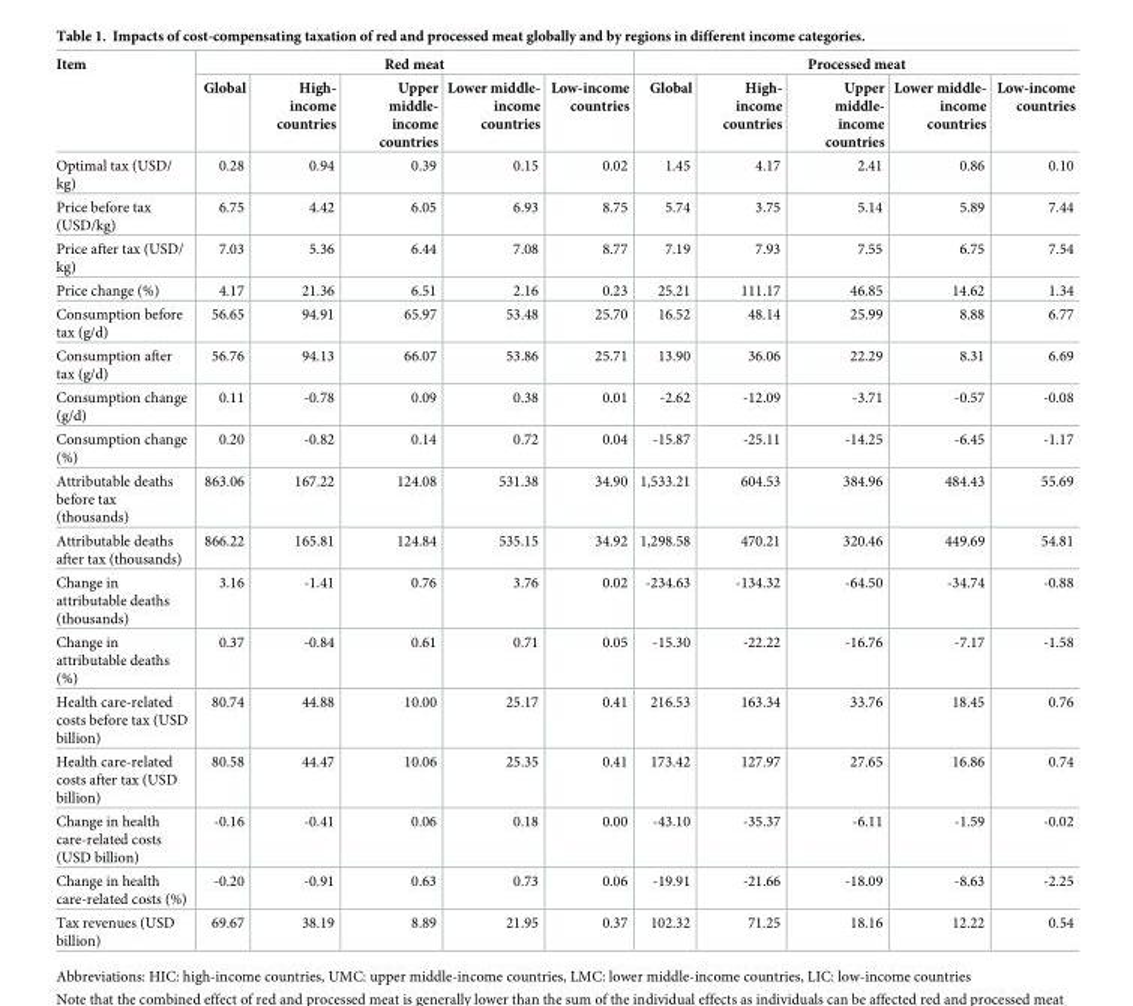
<table><thead><tr><td rowspan="2">Item</td><td colspan="5">Red meat</td><td colspan="5">Processed meat</td></tr><tr><td>Global</td><td>High- income countries</td><td>Upper middle- income countries</td><td>Lower middle- income countries</td><td>Low-income countries</td><td>Global</td><td>High- income countries</td><td>Upper middle- income countries</td><td>Lower middle- income countries</td><td>Low-income countries</td></tr></thead><tbody><tr><td>Optimal tax (USD/ kg)</td><td>0.28</td><td>0.94</td><td>0.39</td><td>0.15</td><td>0.02</td><td>1.45</td><td>4.17</td><td>2.41</td><td>0.86</td><td>0.10</td></tr><tr><td>Price before tax (USD/kg)</td><td>6.75</td><td>4.42</td><td>6.05</td><td>6.93</td><td>8.75</td><td>5.74</td><td>3.75</td><td>5.14</td><td>5.89</td><td>7.44</td></tr><tr><td>Price after tax (USD/ kg)</td><td>7.03</td><td>5.36</td><td>6.44</td><td>7.08</td><td>8.77</td><td>7.19</td><td>7.93</td><td>7.55</td><td>6.75</td><td>7.54</td></tr><tr><td>Price change (%)</td><td>4.17</td><td>21.36</td><td>6.51</td><td>2.16</td><td>0.23</td><td>25.21</td><td>111.17</td><td>46.85</td><td>14.62</td><td>1.34</td></tr><tr><td>Consumption before tax (g/d)</td><td>56.65</td><td>94.91</td><td>65.97</td><td>53.48</td><td>25.70</td><td>16.52</td><td>48.14</td><td>25.99</td><td>8.88</td><td>6.77</td></tr><tr><td>Consumption after tax (g/d)</td><td>56.76</td><td>94.13</td><td>66.07</td><td>53.86</td><td>25.71</td><td>13.90</td><td>36.06</td><td>22.29</td><td>8.31</td><td>6.69</td></tr><tr><td>Consumption change (g/d)</td><td>0.11</td><td>-0.78</td><td>0.09</td><td>0.38</td><td>0.01</td><td>-2.62</td><td>-12.09</td><td>-3.71</td><td>-0.57</td><td>-0.08</td></tr><tr><td>Consumption change (%)</td><td>0.20</td><td>-0.82</td><td>0.14</td><td>0.72</td><td>0.04</td><td>-15.87</td><td>-25.11</td><td>-14.25</td><td>-6.45</td><td>-1.17</td></tr><tr><td>Attributable deaths before tax (thousands)</td><td>863.06</td><td>167.22</td><td>124.08</td><td>531.38</td><td>34.90</td><td>1,533.21</td><td>604.53</td><td>384.96</td><td>484.43</td><td>55.69</td></tr><tr><td>Attributable deaths after tax (thousands)</td><td>866.22</td><td>165.81</td><td>124.84</td><td>535.15</td><td>34.92</td><td>1,298.58</td><td>470.21</td><td>320.46</td><td>449.69</td><td>54.81</td></tr><tr><td>Change in attributable deaths (thousands)</td><td>3.16</td><td>-1.41</td><td>0.76</td><td>3.76</td><td>0.02</td><td>-234.63</td><td>-134.32</td><td>-64.50</td><td>-34.74</td><td>-0.88</td></tr><tr><td>Change in attributable deaths (%)</td><td>0.37</td><td>-0.84</td><td>0.61</td><td>0.71</td><td>0.05</td><td>-15.30</td><td>-22.22</td><td>-16.76</td><td>-7.17</td><td>-1.58</td></tr><tr><td>Health care-related costs before tax (USD billion)</td><td>80.74</td><td>44.88</td><td>10.00</td><td>25.17</td><td>0.41</td><td>216.53</td><td>163.34</td><td>33.76</td><td>18.45</td><td>0.76</td></tr><tr><td>Health care-related costs after tax (USD billion)</td><td>80.58</td><td>44.47</td><td>10.06</td><td>25.35</td><td>0.41</td><td>173.42</td><td>127.97</td><td>27.65</td><td>16.86</td><td>0.74</td></tr><tr><td>Change in health care-related costs (USD billion)</td><td>-0.16</td><td>-0.41</td><td>0.06</td><td>0.18</td><td>0.00</td><td>-43.10</td><td>-35.37</td><td>-6.11</td><td>-1.59</td><td>-0.02</td></tr><tr><td>Change in health care-related costs (%)</td><td>-0.20</td><td>-0.91</td><td>0.63</td><td>0.73</td><td>0.06</td><td>-19.91</td><td>-21.66</td><td>-18.09</td><td>-8.63</td><td>-2.25</td></tr><tr><td>Tax revenues (USD billion)</td><td>69.67</td><td>38.19</td><td>8.89</td><td>21.95</td><td>0.37</td><td>102.32</td><td>71.25</td><td>18.16</td><td>12.22</td><td>0.54</td></tr></tbody></table>